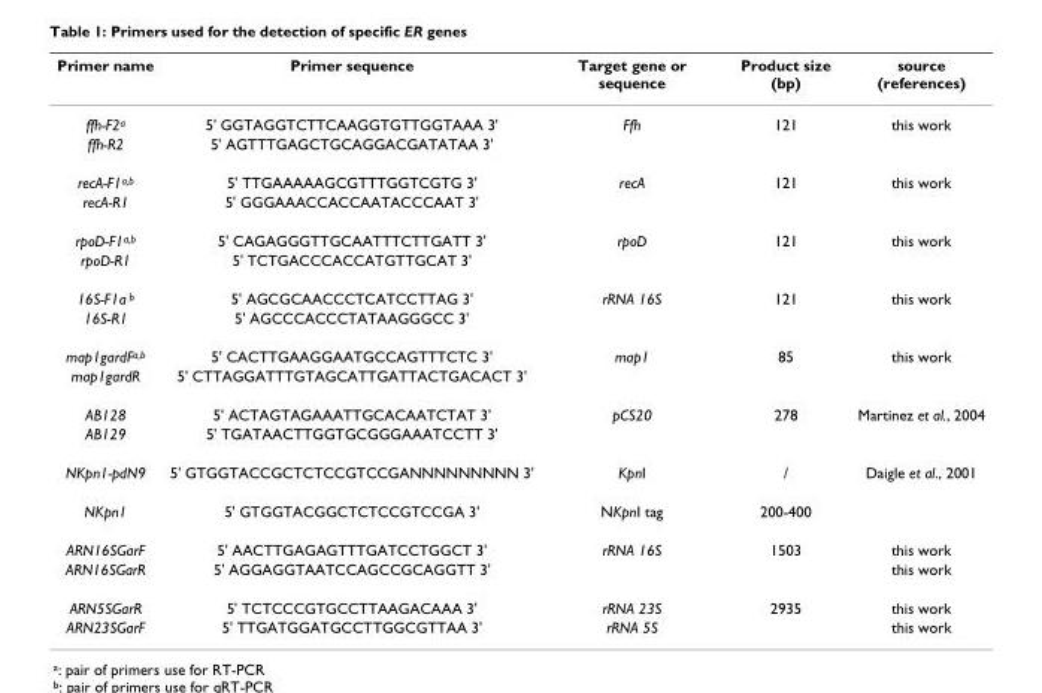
<table><thead><tr><td>Primer name</td><td>Primer sequence</td><td>Target gene or sequence</td><td>Product size (bp)</td><td>source (references)</td></tr></thead><tbody><tr><td>ffh-F2<sup>a</sup></td><td>5&#x27; GGTAGGTCTTCAAGGTGTTGGTAAA 3&#x27;</td><td>Ffh</td><td>121</td><td>this work</td></tr><tr><td>ffh-R2</td><td>5&#x27; AGTTTGAGCTGCAGGACGATATAA 3&#x27;</td><td></td><td></td><td></td></tr><tr><td>recA-F1<sup>a,b</sup></td><td>5&#x27; TTGAAAAAGCGTTTGGTCGTG 3&#x27;</td><td>recA</td><td>121</td><td>this work</td></tr><tr><td>recA-R1</td><td>5&#x27; GGGAAACCACCAATACCCAAT 3&#x27;</td><td></td><td></td><td></td></tr><tr><td>rpoD-F1<sup>a,b</sup></td><td>5&#x27; CAGAGGGTTGCAATTTCTTGATT 3&#x27;</td><td>rpoD</td><td>121</td><td>this work</td></tr><tr><td>rpoD-R1</td><td>5&#x27; TCTGACCCACCATGTTGCAT 3&#x27;</td><td></td><td></td><td></td></tr><tr><td>16S-F1a <sup>b</sup></td><td>5&#x27; AGCGCAACCCTCATCCTTAG 3&#x27;</td><td>rRNA 16S</td><td>121</td><td>this work</td></tr><tr><td>16S-R1</td><td>5&#x27; AGCCCACCCTATAAGGGCC 3&#x27;</td><td></td><td></td><td></td></tr><tr><td>map1gardF<sup>a,b</sup></td><td>5&#x27; CACTTGAAGGAATGCCAGTTTCTC 3&#x27;</td><td>map1</td><td>85</td><td>this work</td></tr><tr><td>map1gardR</td><td>5&#x27; CTTAGGATTTGTAGCATTGATTACTGACACT 3&#x27;</td><td></td><td></td><td></td></tr><tr><td>AB128</td><td>5&#x27; ACTAGTAGAAATTGCACAATCTAT 3&#x27;</td><td>pCS20</td><td>278</td><td>Martinez et al., 2004</td></tr><tr><td>AB129</td><td>5&#x27; TGATAACTTGGTGCGGGAAATCCTT 3&#x27;</td><td></td><td></td><td></td></tr><tr><td>NKpn1-pdN9</td><td>5&#x27; GTGGTACCGCTCTCCGTCCGANNNNNNNNN 3&#x27;</td><td>KpnI</td><td>/</td><td>Daigle et al., 2001</td></tr><tr><td>NKpn1</td><td>5&#x27; GTGGTACGGCTCTCCGTCCGA 3&#x27;</td><td>NKpnI tag</td><td>200-400</td><td></td></tr><tr><td>ARN16SGarF</td><td>5&#x27; AACTTGAGAGTTTGATCCTGGCT 3&#x27;</td><td>rRNA 16S</td><td>1503</td><td>this work</td></tr><tr><td>ARN16SGarR</td><td>5&#x27; AGGAGGTAATCCAGCCGCAGGTT 3&#x27;</td><td></td><td></td><td>this work</td></tr><tr><td>ARN5SGarR</td><td>5&#x27; TCTCCCGTGCCTTAAGACAAA 3&#x27;</td><td>rRNA 23S</td><td>2935</td><td>this work</td></tr><tr><td>ARN23SGarF</td><td>5&#x27; TTGATGGATGCCTTGGCGTTAA 3&#x27;</td><td>rRNA 5S</td><td></td><td>this work</td></tr></tbody></table>